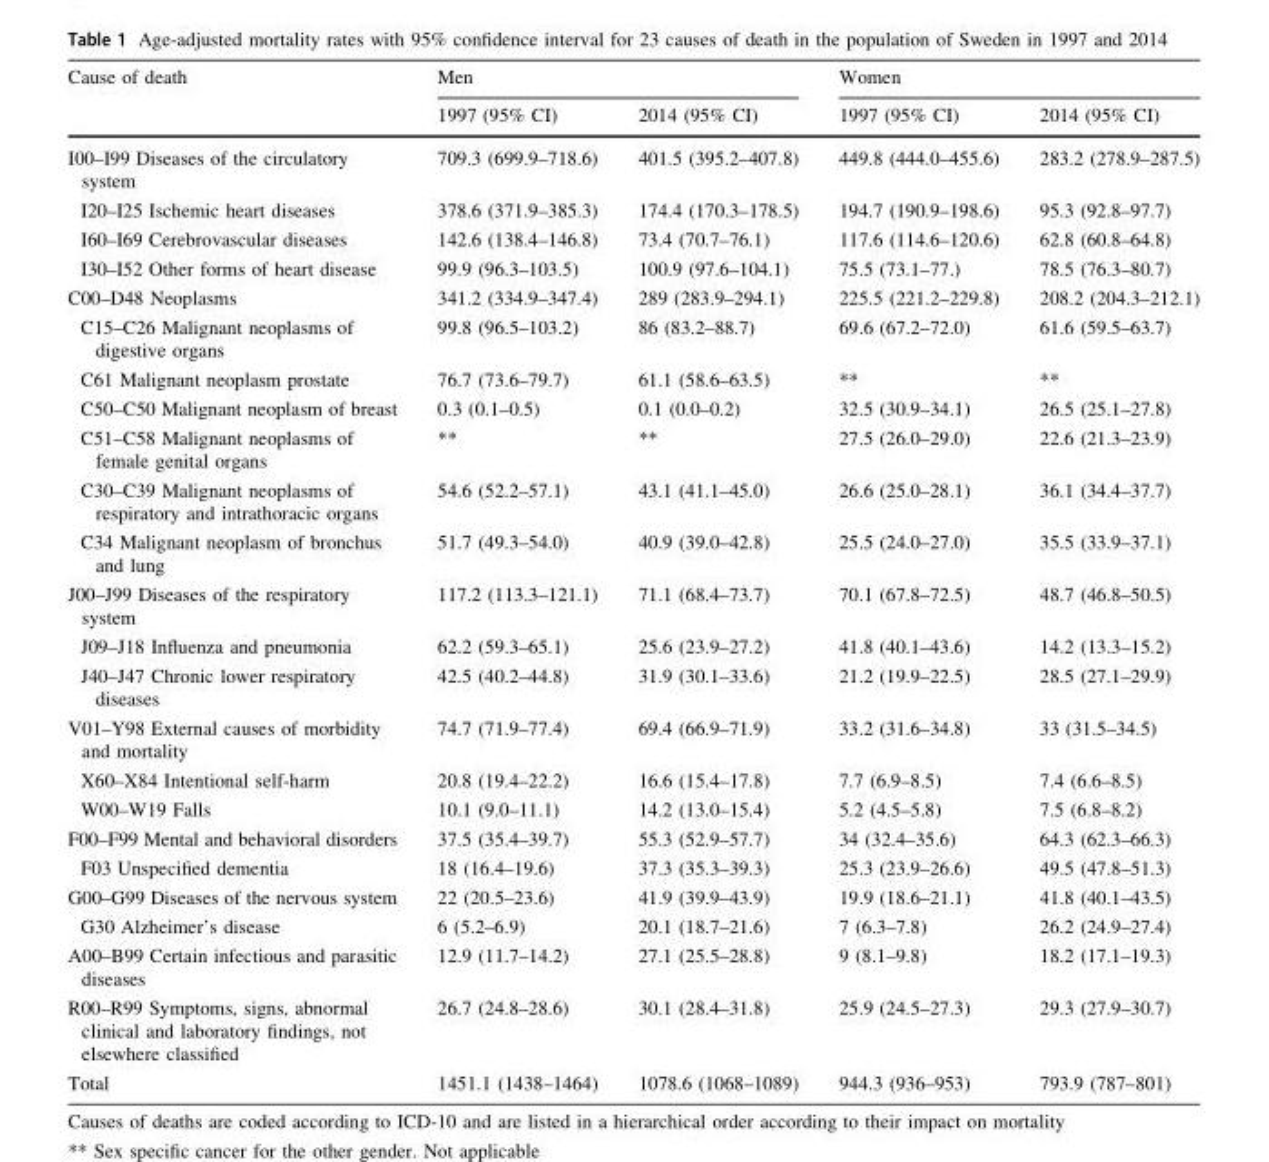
<table><thead><tr><td rowspan="2">Cause of death</td><td colspan="2">Men</td><td colspan="2">Women</td></tr><tr><td>1997 (95% CI)</td><td>2014 (95% CI)</td><td>1997 (95% CI)</td><td>2014 (95% CI)</td></tr></thead><tbody><tr><td>I00–I99 Diseases of the circulatory system</td><td>709.3 (699.9–718.6)</td><td>401.5 (395.2–407.8)</td><td>449.8 (444.0–455.6)</td><td>283.2 (278.9–287.5)</td></tr><tr><td>I20–I25 Ischemic heart diseases</td><td>378.6 (371.9–385.3)</td><td>174.4 (170.3–178.5)</td><td>194.7 (190.9–198.6)</td><td>95.3 (92.8–97.7)</td></tr><tr><td>I60–I69 Cerebrovascular diseases</td><td>142.6 (138.4–146.8)</td><td>73.4 (70.7–76.1)</td><td>117.6 (114.6–120.6)</td><td>62.8 (60.8–64.8)</td></tr><tr><td>I30–I52 Other forms of heart disease</td><td>99.9 (96.3–103.5)</td><td>100.9 (97.6–104.1)</td><td>75.5 (73.1–77.)</td><td>78.5 (76.3–80.7)</td></tr><tr><td>C00–D48 Neoplasms</td><td>341.2 (334.9–347.4)</td><td>289 (283.9–294.1)</td><td>225.5 (221.2–229.8)</td><td>208.2 (204.3–212.1)</td></tr><tr><td>C15–C26 Malignant neoplasms of digestive organs</td><td>99.8 (96.5–103.2)</td><td>86 (83.2–88.7)</td><td>69.6 (67.2–72.0)</td><td>61.6 (59.5–63.7)</td></tr><tr><td>C61 Malignant neoplasm prostate</td><td>76.7 (73.6–79.7)</td><td>61.1 (58.6–63.5)</td><td>**</td><td>**</td></tr><tr><td>C50–C50 Malignant neoplasm of breast</td><td>0.3 (0.1–0.5)</td><td>0.1 (0.0–0.2)</td><td>32.5 (30.9–34.1)</td><td>26.5 (25.1–27.8)</td></tr><tr><td>C51–C58 Malignant neoplasms of female genital organs</td><td>**</td><td>**</td><td>27.5 (26.0–29.0)</td><td>22.6 (21.3–23.9)</td></tr><tr><td>C30–C39 Malignant neoplasms of respiratory and intrathoracic organs</td><td>54.6 (52.2–57.1)</td><td>43.1 (41.1–45.0)</td><td>26.6 (25.0–28.1)</td><td>36.1 (34.4–37.7)</td></tr><tr><td>C34 Malignant neoplasm of bronchus and lung</td><td>51.7 (49.3–54.0)</td><td>40.9 (39.0–42.8)</td><td>25.5 (24.0–27.0)</td><td>35.5 (33.9–37.1)</td></tr><tr><td>J00–J99 Diseases of the respiratory system</td><td>117.2 (113.3–121.1)</td><td>71.1 (68.4–73.7)</td><td>70.1 (67.8–72.5)</td><td>48.7 (46.8–50.5)</td></tr><tr><td>J09–J18 Influenza and pneumonia</td><td>62.2 (59.3–65.1)</td><td>25.6 (23.9–27.2)</td><td>41.8 (40.1–43.6)</td><td>14.2 (13.3–15.2)</td></tr><tr><td>J40–J47 Chronic lower respiratory diseases</td><td>42.5 (40.2–44.8)</td><td>31.9 (30.1–33.6)</td><td>21.2 (19.9–22.5)</td><td>28.5 (27.1–29.9)</td></tr><tr><td>V01–Y98 External causes of morbidity and mortality</td><td>74.7 (71.9–77.4)</td><td>69.4 (66.9–71.9)</td><td>33.2 (31.6–34.8)</td><td>33 (31.5–34.5)</td></tr><tr><td>X60–X84 Intentional self-harm</td><td>20.8 (19.4–22.2)</td><td>16.6 (15.4–17.8)</td><td>7.7 (6.9–8.5)</td><td>7.4 (6.6–8.5)</td></tr><tr><td>W00–W19 Falls</td><td>10.1 (9.0–11.1)</td><td>14.2 (13.0–15.4)</td><td>5.2 (4.5–5.8)</td><td>7.5 (6.8–8.2)</td></tr><tr><td>F00–F99 Mental and behavioral disorders</td><td>37.5 (35.4–39.7)</td><td>55.3 (52.9–57.7)</td><td>34 (32.4–35.6)</td><td>64.3 (62.3–66.3)</td></tr><tr><td>F03 Unspecified dementia</td><td>18 (16.4–19.6)</td><td>37.3 (35.3–39.3)</td><td>25.3 (23.9–26.6)</td><td>49.5 (47.8–51.3)</td></tr><tr><td>G00–G99 Diseases of the nervous system</td><td>22 (20.5–23.6)</td><td>41.9 (39.9–43.9)</td><td>19.9 (18.6–21.1)</td><td>41.8 (40.1–43.5)</td></tr><tr><td>G30 Alzheimer’s disease</td><td>6 (5.2–6.9)</td><td>20.1 (18.7–21.6)</td><td>7 (6.3–7.8)</td><td>26.2 (24.9–27.4)</td></tr><tr><td>A00–B99 Certain infectious and parasitic diseases</td><td>12.9 (11.7–14.2)</td><td>27.1 (25.5–28.8)</td><td>9 (8.1–9.8)</td><td>18.2 (17.1–19.3)</td></tr><tr><td>R00–R99 Symptoms, signs, abnormal clinical and laboratory findings, not elsewhere classified</td><td>26.7 (24.8–28.6)</td><td>30.1 (28.4–31.8)</td><td>25.9 (24.5–27.3)</td><td>29.3 (27.9–30.7)</td></tr><tr><td>Total</td><td>1451.1 (1438–1464)</td><td>1078.6 (1068–1089)</td><td>944.3 (936–953)</td><td>793.9 (787–801)</td></tr></tbody></table>